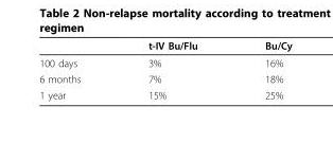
<table><thead><tr><td></td><td>t-IV Bu/Flu</td><td>Bu/Cy</td></tr></thead><tbody><tr><td>100 days</td><td>3%</td><td>16%</td></tr><tr><td>6 months</td><td>7%</td><td>18%</td></tr><tr><td>1 year</td><td>15%</td><td>25%</td></tr></tbody></table>